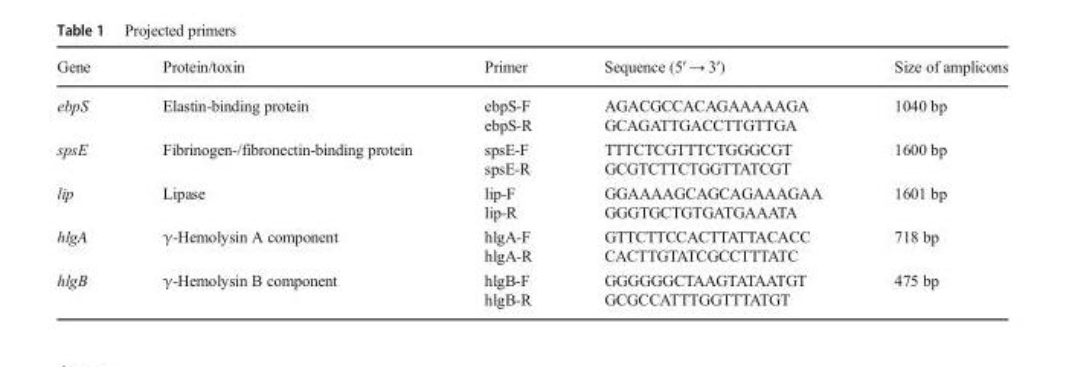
<table><thead><tr><td>Gene</td><td>Protein/toxin</td><td>Primer</td><td>Sequence (5′ → 3′)</td><td>Size of amplicons</td></tr></thead><tbody><tr><td rowspan="2">ebpS</td><td rowspan="2">Elastin-binding protein</td><td>ebpS-F</td><td>AGACGCCACAGAAAAAGA</td><td rowspan="2">1040 bp</td></tr><tr><td>ebpS-R</td><td>GCAGATTGACCTTGTTGA</td></tr><tr><td rowspan="2">spsE</td><td rowspan="2">Fibrinogen-/fibronectin-binding protein</td><td>spsE-F</td><td>TTTCTCGTTTCTGGGCGT</td><td rowspan="2">1600 bp</td></tr><tr><td>spsE-R</td><td>GCGTCTTCTGGTTATCGT</td></tr><tr><td rowspan="2">lip</td><td rowspan="2">Lipase</td><td>lip-F</td><td>GGAAAAGCAGCAGAAAGAA</td><td rowspan="2">1601 bp</td></tr><tr><td>lip-R</td><td>GGGTGCTGTGATGAAATA</td></tr><tr><td rowspan="2">hlgA</td><td rowspan="2">γ-Hemolysin A component</td><td>hlgA-F</td><td>GTTCTTCCACTTATTACACC</td><td rowspan="2">718 bp</td></tr><tr><td>hlgA-R</td><td>CACTTGTATCGCCTTTATC</td></tr><tr><td rowspan="2">hlgB</td><td rowspan="2">γ-Hemolysin B component</td><td>hlgB-F</td><td>GGGGGGCTAAGTATAATGT</td><td rowspan="2">475 bp</td></tr><tr><td>hlgB-R</td><td>GCGCCATTTGGTTTATGT</td></tr></tbody></table>